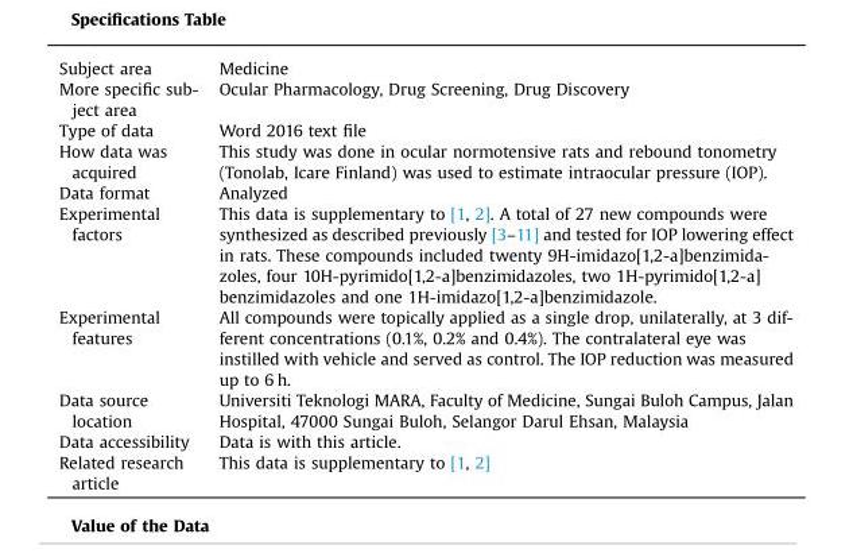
<table><tbody><tr><td>Subject area</td><td>Medicine</td></tr><tr><td>More specific sub- ject area</td><td>Ocular Pharmacology, Drug Screening, Drug Discovery</td></tr><tr><td>Type of data</td><td>Word 2016 text file</td></tr><tr><td>How data was acquired</td><td>This study was done in ocular normotensive rats and rebound tonometry (Tonolab, Icare Finland) was used to estimate intraocular pressure (IOP).</td></tr><tr><td>Data format</td><td>Analyzed</td></tr><tr><td>Experimental factors</td><td>This data is supplementary to [1, 2]. A total of 27 new compounds were synthesized as described previously [3–11] and tested for IOP lowering effect in rats. These compounds included twenty 9H-imidazo[1,2-a]benzimida- zoles, four 10H-pyrimido[1,2-a]benzimidazoles, two 1H-pyrimido[1,2-a] benzimidazoles and one 1H-imidazo[1,2-a]benzimidazole.</td></tr><tr><td>Experimental features</td><td>All compounds were topically applied as a single drop, unilaterally, at 3 dif- ferent concentrations (0.1%, 0.2% and 0.4%). The contralateral eye was instilled with vehicle and served as control. The IOP reduction was measured up to 6 h.</td></tr><tr><td>Data source location</td><td>Universiti Teknologi MARA, Faculty of Medicine, Sungai Buloh Campus, Jalan Hospital, 47000 Sungai Buloh, Selangor Darul Ehsan, Malaysia</td></tr><tr><td>Data accessibility</td><td>Data is with this article.</td></tr><tr><td>Related research article</td><td>This data is supplementary to [1, 2]</td></tr></tbody></table>